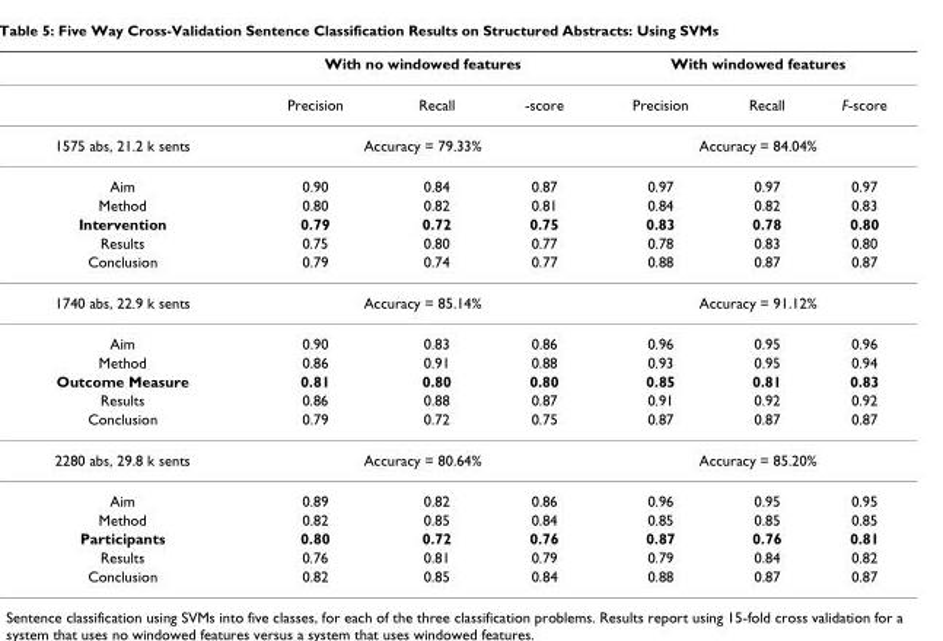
<table><thead><tr><td rowspan="2"></td><td colspan="3">With no windowed features</td><td colspan="3">With windowed features</td></tr><tr><td>Precision</td><td>Recall</td><td>-score</td><td>Precision</td><td>Recall</td><td>F-score</td></tr></thead><tbody><tr><td>1575 abs, 21.2 k sents</td><td colspan="3">Accuracy = 79.33%</td><td colspan="3">Accuracy = 84.04%</td></tr><tr><td>Aim</td><td>0.90</td><td>0.84</td><td>0.87</td><td>0.97</td><td>0.97</td><td>0.97</td></tr><tr><td>Method</td><td>0.80</td><td>0.82</td><td>0.81</td><td>0.84</td><td>0.82</td><td>0.83</td></tr><tr><td>Intervention</td><td>0.79</td><td>0.72</td><td>0.75</td><td>0.83</td><td>0.78</td><td>0.80</td></tr><tr><td>Results</td><td>0.75</td><td>0.80</td><td>0.77</td><td>0.78</td><td>0.83</td><td>0.80</td></tr><tr><td>Conclusion</td><td>0.79</td><td>0.74</td><td>0.77</td><td>0.88</td><td>0.87</td><td>0.87</td></tr><tr><td>1740 abs, 22.9 k sents</td><td colspan="3">Accuracy = 85.14%</td><td colspan="3">Accuracy = 91.12%</td></tr><tr><td>Aim</td><td>0.90</td><td>0.83</td><td>0.86</td><td>0.96</td><td>0.95</td><td>0.96</td></tr><tr><td>Method</td><td>0.86</td><td>0.91</td><td>0.88</td><td>0.93</td><td>0.95</td><td>0.94</td></tr><tr><td>Outcome Measure</td><td>0.81</td><td>0.80</td><td>0.80</td><td>0.85</td><td>0.81</td><td>0.83</td></tr><tr><td>Results</td><td>0.86</td><td>0.88</td><td>0.87</td><td>0.91</td><td>0.92</td><td>0.92</td></tr><tr><td>Conclusion</td><td>0.79</td><td>0.72</td><td>0.75</td><td>0.87</td><td>0.87</td><td>0.87</td></tr><tr><td>2280 abs, 29.8 k sents</td><td colspan="3">Accuracy = 80.64%</td><td colspan="3">Accuracy = 85.20%</td></tr><tr><td>Aim</td><td>0.89</td><td>0.82</td><td>0.86</td><td>0.96</td><td>0.95</td><td>0.95</td></tr><tr><td>Method</td><td>0.82</td><td>0.85</td><td>0.84</td><td>0.85</td><td>0.85</td><td>0.85</td></tr><tr><td>Participants</td><td>0.80</td><td>0.72</td><td>0.76</td><td>0.87</td><td>0.76</td><td>0.81</td></tr><tr><td>Results</td><td>0.76</td><td>0.81</td><td>0.79</td><td>0.79</td><td>0.84</td><td>0.82</td></tr><tr><td>Conclusion</td><td>0.82</td><td>0.85</td><td>0.84</td><td>0.88</td><td>0.87</td><td>0.87</td></tr></tbody></table>